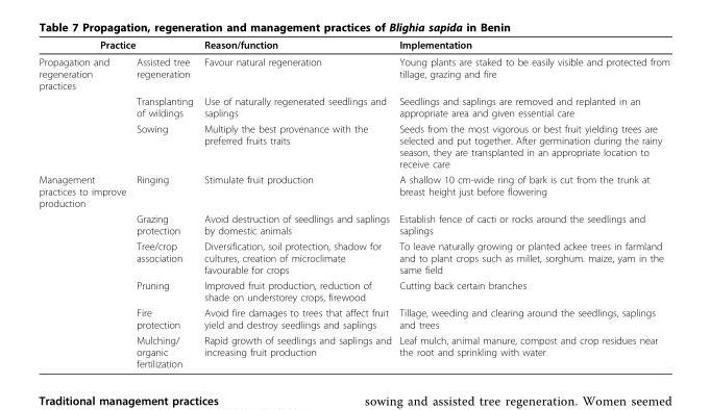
<table><thead><tr><td colspan="2">Practice</td><td rowspan="2">Reason/function Favour natural regeneration</td><td rowspan="2">Implementation Young plants are staked to be easily visible and protected from tillage, grazing and fire</td></tr><tr><td>Propagation and regeneration practices</td><td>Assisted tree regeneration</td></tr></thead><tbody><tr><td></td><td>Transplanting of wildings</td><td>Use of naturally regenerated seedlings and saplings</td><td>Seedlings and saplings are removed and replanted in an appropriate area and given essential care</td></tr><tr><td></td><td>Sowing</td><td>Multiply the best provenance with the preferred fruits traits</td><td>Seeds from the most vigorous or best fruit yielding trees are selected and put together. After germination during the rainy season, they are transplanted in an appropriate location to receive care</td></tr><tr><td rowspan="6">Management practices to improve production</td><td>Ringing</td><td>Stimulate fruit production</td><td>A shallow 10 cm-wide ring of bark is cut from the trunk at breast height just before flowering</td></tr><tr><td>Grazing protection</td><td>Avoid destruction of seedlings and saplings by domestic animals</td><td>Establish fence of cacti or rocks around the seedlings and saplings</td></tr><tr><td>Tree/crop association</td><td>Diversification, soil protection, shadow for cultures, creation of microclimate favourable for crops</td><td>To leave naturally growing or planted ackee trees in farmland and to plant crops such as millet, sorghum. maize, yam in the same field</td></tr><tr><td>Pruning</td><td>Improved fruit production, reduction of shade on understorey crops, firewood</td><td>Cutting back certain branches</td></tr><tr><td>Fire protection</td><td>Avoid fire damages to trees that affect fruit yield and destroy seedlings and saplings</td><td>Tillage, weeding and clearing around the seedlings, saplings and trees</td></tr><tr><td>Mulching/ organic fertilization</td><td>Rapid growth of seedlings and saplings and increasing fruit production</td><td>Leaf mulch, animal manure, compost and crop residues near the root and sprinkling with water</td></tr></tbody></table>